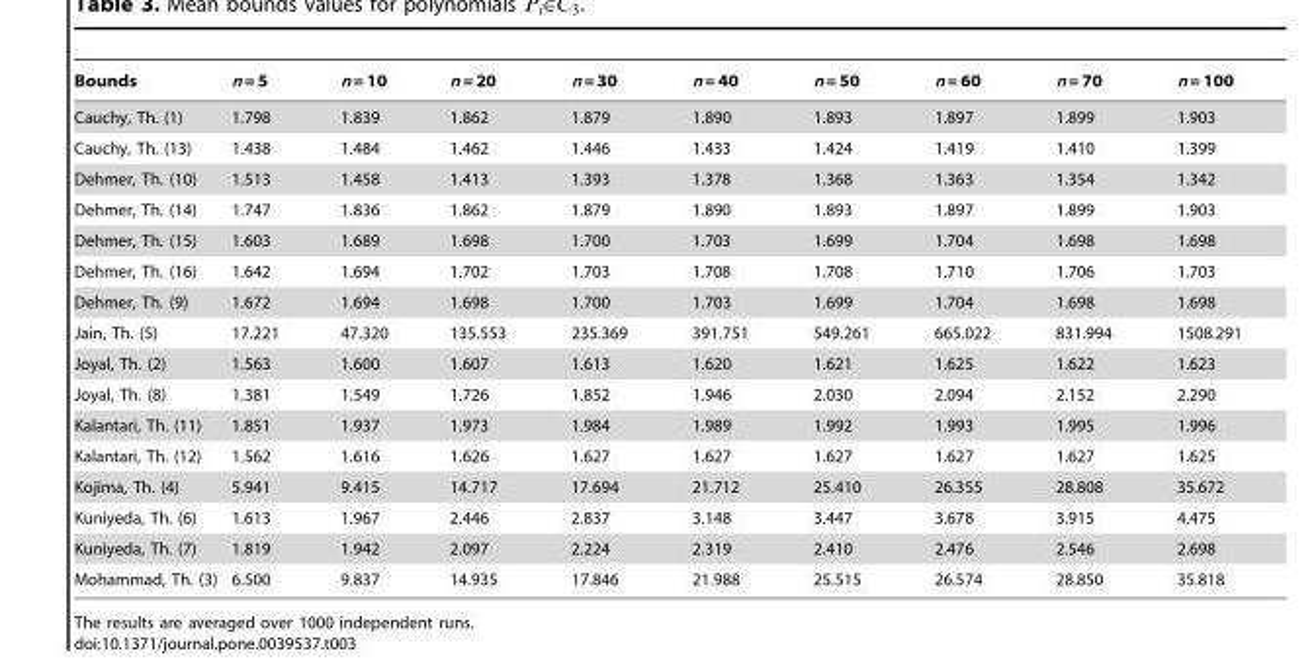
<table><thead><tr><td>Bounds</td><td>n = 5</td><td>n = 10</td><td>n = 20</td><td>n = 30</td><td>n = 40</td><td>n = 50</td><td>n = 60</td><td>n = 70</td><td>n = 100</td></tr></thead><tbody><tr><td>Cauchy, Th. (1)</td><td>1.798</td><td>1.839</td><td>1.862</td><td>1.879</td><td>1.890</td><td>1.893</td><td>1.897</td><td>1.899</td><td>1.903</td></tr><tr><td>Cauchy, Th. (13)</td><td>1.438</td><td>1.484</td><td>1.462</td><td>1.446</td><td>1.433</td><td>1.424</td><td>1.419</td><td>1.410</td><td>1.399</td></tr><tr><td>Dehmer, Th. (10)</td><td>1.513</td><td>1.458</td><td>1.413</td><td>1.393</td><td>1.378</td><td>1.368</td><td>1.363</td><td>1.354</td><td>1.342</td></tr><tr><td>Dehmer, Th. (14)</td><td>1.747</td><td>1.836</td><td>1.862</td><td>1.879</td><td>1.890</td><td>1.893</td><td>1.897</td><td>1.899</td><td>1.903</td></tr><tr><td>Dehmer, Th. (15)</td><td>1.603</td><td>1.689</td><td>1.698</td><td>1.700</td><td>1.703</td><td>1.699</td><td>1.704</td><td>1.698</td><td>1.698</td></tr><tr><td>Dehmer, Th. (16)</td><td>1.642</td><td>1.694</td><td>1.702</td><td>1.703</td><td>1.708</td><td>1.708</td><td>1.710</td><td>1.706</td><td>1.703</td></tr><tr><td>Dehmer, Th. (9)</td><td>1.672</td><td>1.694</td><td>1.698</td><td>1.700</td><td>1.703</td><td>1.699</td><td>1.704</td><td>1.698</td><td>1.698</td></tr><tr><td>Jain, Th. (5)</td><td>17.221</td><td>47.320</td><td>135.553</td><td>235.369</td><td>391.751</td><td>549.261</td><td>665.022</td><td>831.994</td><td>1508.291</td></tr><tr><td>Joyal, Th. (2)</td><td>1.563</td><td>1.600</td><td>1.607</td><td>1.613</td><td>1.620</td><td>1.621</td><td>1.625</td><td>1.622</td><td>1.623</td></tr><tr><td>Joyal, Th. (8)</td><td>1.381</td><td>1.549</td><td>1.726</td><td>1.852</td><td>1.946</td><td>2.030</td><td>2.094</td><td>2.152</td><td>2.290</td></tr><tr><td>Kalantari, Th. (11)</td><td>1.851</td><td>1.937</td><td>1.973</td><td>1.984</td><td>1.989</td><td>1.992</td><td>1.993</td><td>1.995</td><td>1.996</td></tr><tr><td>Kalantari, Th. (12)</td><td>1.562</td><td>1.616</td><td>1.626</td><td>1.627</td><td>1.627</td><td>1.627</td><td>1.627</td><td>1.627</td><td>1.625</td></tr><tr><td>Kojima, Th. (4)</td><td>5.941</td><td>9.415</td><td>14.717</td><td>17.694</td><td>21.712</td><td>25.410</td><td>26.355</td><td>28.808</td><td>35.672</td></tr><tr><td>Kuniyeda, Th. (6)</td><td>1.613</td><td>1.967</td><td>2.446</td><td>2.837</td><td>3.148</td><td>3.447</td><td>3.678</td><td>3.915</td><td>4.475</td></tr><tr><td>Kuniyeda, Th. (7)</td><td>1.819</td><td>1.942</td><td>2.097</td><td>2.224</td><td>2.319</td><td>2.410</td><td>2.476</td><td>2.546</td><td>2.698</td></tr><tr><td>Mohammad, Th. (3)</td><td>6.500</td><td>9.837</td><td>14.935</td><td>17.846</td><td>21.988</td><td>25.515</td><td>26.574</td><td>28.850</td><td>35.818</td></tr></tbody></table>